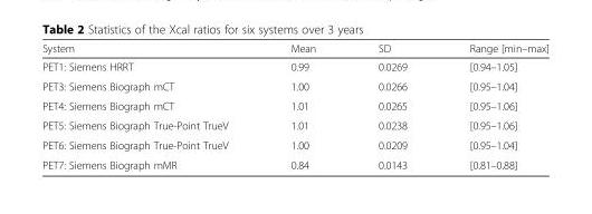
<table><thead><tr><td>System</td><td>Mean</td><td>SD</td><td>Range [min–max]</td></tr></thead><tbody><tr><td>PET1: Siemens HRRT</td><td>0.99</td><td>0.0269</td><td>[0.94–1.05]</td></tr><tr><td>PET3: Siemens Biograph mCT</td><td>1.00</td><td>0.0266</td><td>[0.95–1.04]</td></tr><tr><td>PET4: Siemens Biograph mCT</td><td>1.01</td><td>0.0265</td><td>[0.95–1.06]</td></tr><tr><td>PET5: Siemens Biograph True-Point TrueV</td><td>1.01</td><td>0.0238</td><td>[0.95–1.06]</td></tr><tr><td>PET6: Siemens Biograph True-Point TrueV</td><td>1.00</td><td>0.0209</td><td>[0.95–1.04]</td></tr><tr><td>PET7: Siemens Biograph mMR</td><td>0.84</td><td>0.0143</td><td>[0.81–0.88]</td></tr></tbody></table>